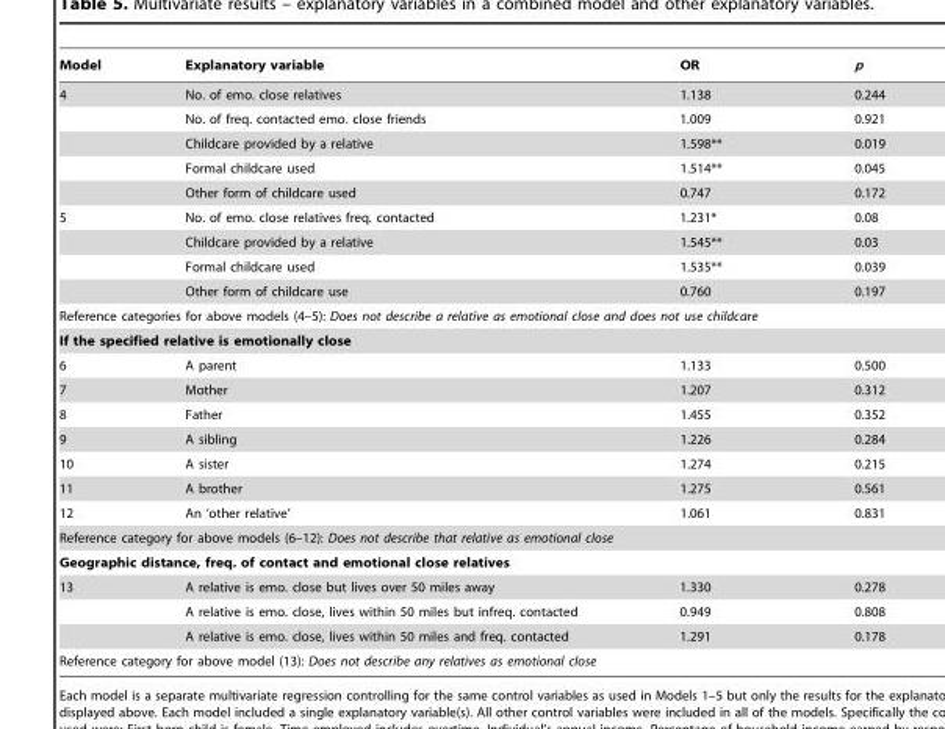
<table><thead><tr><td>Model</td><td>Explanatory variable</td><td>OR</td><td>p</td></tr></thead><tbody><tr><td rowspan="5">4</td><td>No. of emo. close relatives</td><td>1.138</td><td>0.244</td></tr><tr><td>No. of freq. contacted emo. close friends</td><td>1.009</td><td>0.921</td></tr><tr><td>Childcare provided by a relative</td><td>1.598**</td><td>0.019</td></tr><tr><td>Formal childcare used</td><td>1.514**</td><td>0.045</td></tr><tr><td>Other form of childcare used</td><td>0.747</td><td>0.172</td></tr><tr><td rowspan="4">5</td><td>No. of emo. close relatives freq. contacted</td><td>1.231*</td><td>0.08</td></tr><tr><td>Childcare provided by a relative</td><td>1.545**</td><td>0.03</td></tr><tr><td>Formal childcare used</td><td>1.535**</td><td>0.039</td></tr><tr><td>Other form of childcare use</td><td>0.760</td><td>0.197</td></tr><tr><td colspan="4">Reference categories for above models (4–5): Does not describe a relative as emotional close and does not use childcare</td></tr><tr><td colspan="4">If the specified relative is emotionally close</td></tr><tr><td>6</td><td>A parent</td><td>1.133</td><td>0.500</td></tr><tr><td>7</td><td>Mother</td><td>1.207</td><td>0.312</td></tr><tr><td>8</td><td>Father</td><td>1.455</td><td>0.352</td></tr><tr><td>9</td><td>A sibling</td><td>1.226</td><td>0.284</td></tr><tr><td>10</td><td>A sister</td><td>1.274</td><td>0.215</td></tr><tr><td>11</td><td>A brother</td><td>1.275</td><td>0.561</td></tr><tr><td>12</td><td>An ‘other relative’</td><td>1.061</td><td>0.831</td></tr><tr><td colspan="4">Reference category for above models (6–12): Does not describe that relative as emotional close</td></tr><tr><td colspan="4">Geographic distance, freq. of contact and emotional close relatives</td></tr><tr><td rowspan="3">13</td><td>A relative is emo. close but lives over 50 miles away</td><td>1.330</td><td>0.278</td></tr><tr><td>A relative is emo. close, lives within 50 miles but infreq. contacted</td><td>0.949</td><td>0.808</td></tr><tr><td>A relative is emo. close, lives within 50 miles and freq. contacted</td><td>1.291</td><td>0.178</td></tr><tr><td colspan="4">Reference category for above model (13): Does not describe any relatives as emotional close</td></tr></tbody></table>